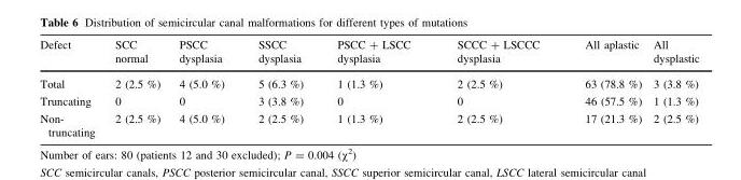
<table><thead><tr><td>Defect</td><td>SCC normal</td><td>PSCC dysplasia</td><td>SSCC dysplasia</td><td>PSCC + LSCC dysplasia</td><td>SCCC + LSCCC dysplasia</td><td>All aplastic</td><td>All dysplastic</td></tr></thead><tbody><tr><td>Total</td><td>2 (2.5 %)</td><td>4 (5.0 %)</td><td>5 (6.3 %)</td><td>1 (1.3 %)</td><td>2 (2.5 %)</td><td>63 (78.8 %)</td><td>3 (3.8 %)</td></tr><tr><td>Truncating</td><td>0</td><td>0</td><td>3 (3.8 %)</td><td>0</td><td>0</td><td>46 (57.5 %)</td><td>1 (1.3 %)</td></tr><tr><td>Non- truncating</td><td>2 (2.5 %)</td><td>4 (5.0 %)</td><td>2 (2.5 %)</td><td>1 (1.3 %)</td><td>2 (2.5 %)</td><td>17 (21.3 %)</td><td>2 (2.5 %)</td></tr></tbody></table>